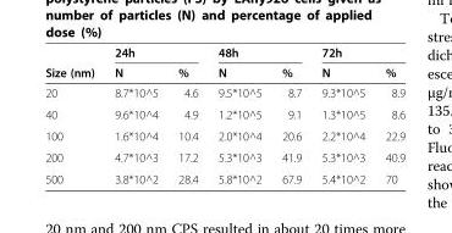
<table><thead><tr><td rowspan="2">Size (nm)</td><td rowspan="2">24h N</td><td rowspan="2">%</td><td rowspan="2">48h N</td><td rowspan="2">%</td><td rowspan="2">72h N</td><td rowspan="2">%</td></tr><tr></tr></thead><tbody><tr><td>20</td><td>8.7*10^5</td><td>4.6</td><td>9.5*10^5</td><td>8.7</td><td>9.3*10^5</td><td>8.9</td></tr><tr><td>40</td><td>9.6*10^4</td><td>4.9</td><td>1.2*10^5</td><td>9.1</td><td>1.3*10^5</td><td>8.6</td></tr><tr><td>100</td><td>1.6*10^4</td><td>10.4</td><td>2.0*10^4</td><td>20.6</td><td>2.2*10^4</td><td>22.9</td></tr><tr><td>200</td><td>4.7*10^3</td><td>17.2</td><td>5.3*10^3</td><td>41.9</td><td>5.3*10^3</td><td>40.9</td></tr><tr><td>500</td><td>3.8*10^2</td><td>28.4</td><td>5.8*10^2</td><td>67.9</td><td>5.4*10^2</td><td>70</td></tr></tbody></table>